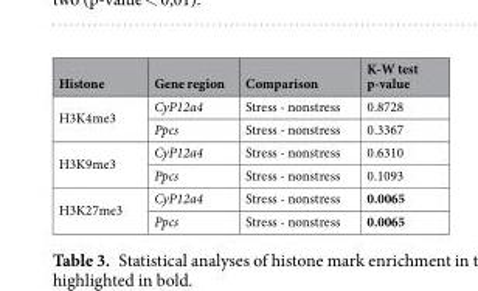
<table><thead><tr><td>Histone</td><td>Gene region</td><td>Comparison</td><td>K-W test p-value</td></tr></thead><tbody><tr><td rowspan="2">H3K4me3</td><td>CyP12a4</td><td>Stress - nonstress</td><td>0.8728</td></tr><tr><td>Ppcs</td><td>Stress - nonstress</td><td>0.3367</td></tr><tr><td rowspan="2">H3K9me3</td><td>CyP12a4</td><td>Stress - nonstress</td><td>0.6310</td></tr><tr><td>Ppcs</td><td>Stress - nonstress</td><td>0.1093</td></tr><tr><td rowspan="2">H3K27me3</td><td>CyP12a4</td><td>Stress - nonstress</td><td>0.0065</td></tr><tr><td>Ppcs</td><td>Stress - nonstress</td><td>0.0065</td></tr></tbody></table>